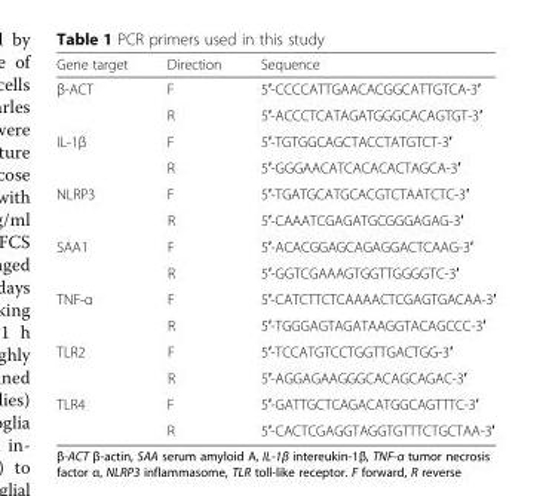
<table><thead><tr><td>Gene target</td><td>Direction</td><td>Sequence</td></tr></thead><tbody><tr><td rowspan="2">β-ACT</td><td>F</td><td>5′-CCCCATTGAACACGGCATTGTCA-3′</td></tr><tr><td>R</td><td>5′-ACCCTCATAGATGGGCACAGTGT-3′</td></tr><tr><td rowspan="2">IL-1β</td><td>F</td><td>5′-TGTGGCAGCTACCTATGTCT-3′</td></tr><tr><td>R</td><td>5′-GGGAACATCACACACTAGCA-3′</td></tr><tr><td rowspan="2">NLRP3</td><td>F</td><td>5′-TGATGCATGCACGTCTAATCTC-3′</td></tr><tr><td>R</td><td>5′-CAAATCGAGATGCGGGAGAG-3′</td></tr><tr><td rowspan="2">SAA1</td><td>F</td><td>5′-ACACGGAGCAGAGGACTCAAG-3′</td></tr><tr><td>R</td><td>5′-GGTCGAAAGTGGTTGGGGTC-3′</td></tr><tr><td rowspan="2">TNF-α</td><td>F</td><td>5′-CATCTTCTCAAAACTCGAGTGACAA-3′</td></tr><tr><td>R</td><td>5′-TGGGAGTAGATAAGGTACAGCCC-3′</td></tr><tr><td rowspan="2">TLR2</td><td>F</td><td>5′-TCCATGTCCTGGTTGACTGG-3′</td></tr><tr><td>R</td><td>5′-AGGAGAAGGGCACAGCAGAC-3′</td></tr><tr><td rowspan="2">TLR4</td><td>F</td><td>5′-GATTGCTCAGACATGGCAGTTTC-3′</td></tr><tr><td>R</td><td>5′-CACTCGAGGTAGGTGTTTCTGCTAA-3′</td></tr></tbody></table>